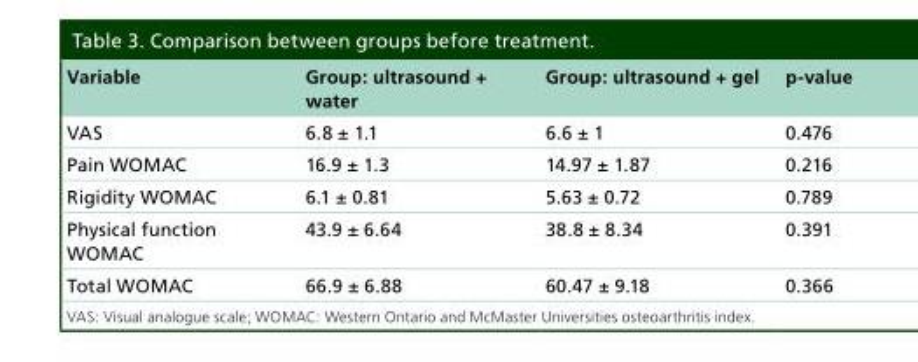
<table><thead><tr><td>Variable</td><td>Group: ultrasound + water</td><td>Group: ultrasound + gel</td><td>p-value</td></tr></thead><tbody><tr><td>VAS</td><td>6.8 ± 1.1</td><td>6.6 ± 1</td><td>0.476</td></tr><tr><td>Pain WOMAC</td><td>16.9 ± 1.3</td><td>14.97 ± 1.87</td><td>0.216</td></tr><tr><td>Rigidity WOMAC</td><td>6.1 ± 0.81</td><td>5.63 ± 0.72</td><td>0.789</td></tr><tr><td>Physical function WOMAC</td><td>43.9 ± 6.64</td><td>38.8 ± 8.34</td><td>0.391</td></tr><tr><td>Total WOMAC</td><td>66.9 ± 6.88</td><td>60.47 ± 9.18</td><td>0.366</td></tr></tbody></table>